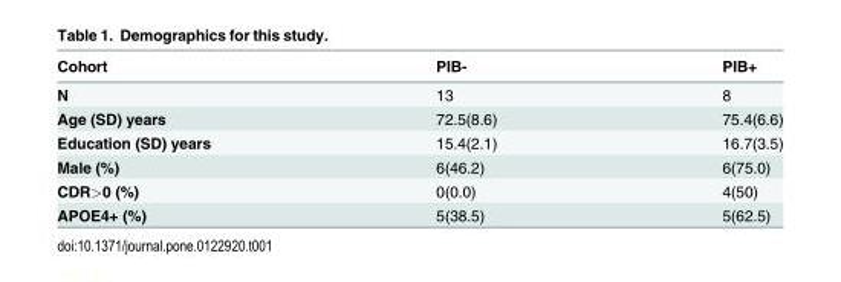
<table><thead><tr><td>Cohort</td><td>PIB-</td><td>PIB+</td></tr></thead><tbody><tr><td>N</td><td>13</td><td>8</td></tr><tr><td>Age (SD) years</td><td>72.5(8.6)</td><td>75.4(6.6)</td></tr><tr><td>Education (SD) years</td><td>15.4(2.1)</td><td>16.7(3.5)</td></tr><tr><td>Male (%)</td><td>6(46.2)</td><td>6(75.0)</td></tr><tr><td>CDR&gt;0 (%)</td><td>0(0.0)</td><td>4(50)</td></tr><tr><td>APOE4+ (%)</td><td>5(38.5)</td><td>5(62.5)</td></tr></tbody></table>